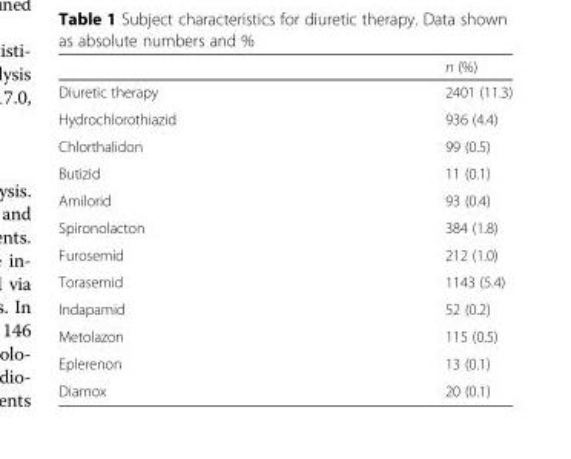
<table><thead><tr><td></td><td>n (%)</td></tr></thead><tbody><tr><td>Diuretic therapy</td><td>2401 (11.3)</td></tr><tr><td>Hydrochlorothiazid</td><td>936 (4.4)</td></tr><tr><td>Chlorthalidon</td><td>99 (0.5)</td></tr><tr><td>Butizid</td><td>11 (0.1)</td></tr><tr><td>Amilorid</td><td>93 (0.4)</td></tr><tr><td>Spironolacton</td><td>384 (1.8)</td></tr><tr><td>Furosemid</td><td>212 (1.0)</td></tr><tr><td>Torasemid</td><td>1143 (5.4)</td></tr><tr><td>Indapamid</td><td>52 (0.2)</td></tr><tr><td>Metolazon</td><td>115 (0.5)</td></tr><tr><td>Eplerenon</td><td>13 (0.1)</td></tr><tr><td>Diamox</td><td>20 (0.1)</td></tr></tbody></table>